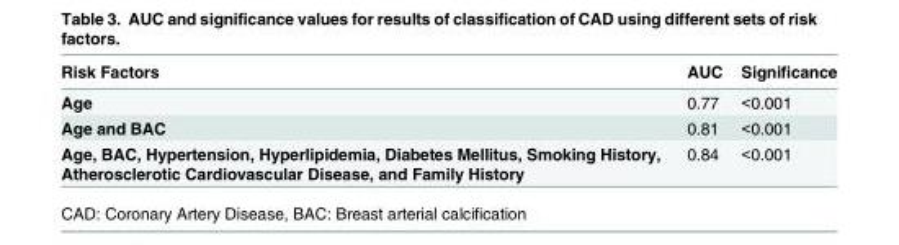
<table><thead><tr><td>Risk Factors</td><td>AUC</td><td>Significance</td></tr></thead><tbody><tr><td>Age</td><td>0.77</td><td>&lt;0.001</td></tr><tr><td>Age and BAC</td><td>0.81</td><td>&lt;0.001</td></tr><tr><td>Age, BAC, Hypertension, Hyperlipidemia, Diabetes Mellitus, Smoking History, Atherosclerotic Cardiovascular Disease, and Family History</td><td>0.84</td><td>&lt;0.001</td></tr></tbody></table>